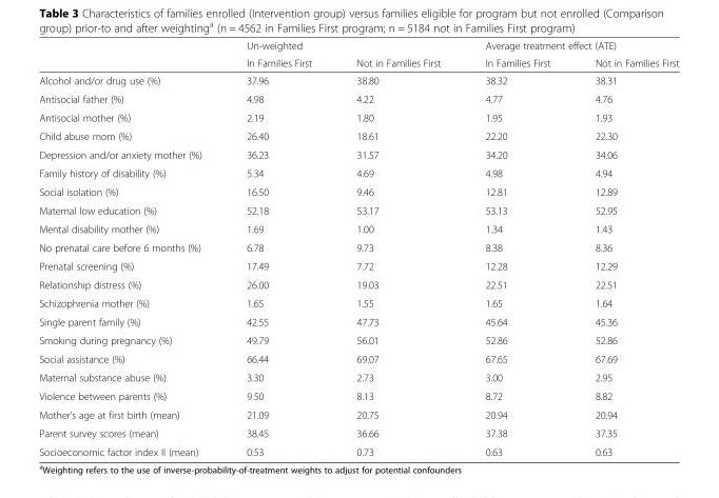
<table><thead><tr><td rowspan="2"></td><td colspan="2">Un-weighted</td><td colspan="2">Average treatment effect (ATE)</td></tr><tr><td>In Families First</td><td>Not in Families First</td><td>In Families First</td><td>Not in Families First</td></tr></thead><tbody><tr><td>Alcohol and/or drug use (%)</td><td>37.96</td><td>38.80</td><td>38.32</td><td>38.31</td></tr><tr><td>Antisocial father (%)</td><td>4.98</td><td>4.22</td><td>4.77</td><td>4.76</td></tr><tr><td>Antisocial mother (%)</td><td>2.19</td><td>1.80</td><td>1.95</td><td>1.93</td></tr><tr><td>Child abuse mom (%)</td><td>26.40</td><td>18.61</td><td>22.20</td><td>22.30</td></tr><tr><td>Depression and/or anxiety mother (%)</td><td>36.23</td><td>31.57</td><td>34.20</td><td>34.06</td></tr><tr><td>Family history of disability (%)</td><td>5.34</td><td>4.69</td><td>4.98</td><td>4.94</td></tr><tr><td>Social isolation (%)</td><td>16.50</td><td>9.46</td><td>12.81</td><td>12.89</td></tr><tr><td>Maternal low education (%)</td><td>52.18</td><td>53.17</td><td>53.13</td><td>52.95</td></tr><tr><td>Mental disability mother (%)</td><td>1.69</td><td>1.00</td><td>1.34</td><td>1.43</td></tr><tr><td>No prenatal care before 6 months (%)</td><td>6.78</td><td>9.73</td><td>8.38</td><td>8.36</td></tr><tr><td>Prenatal screening (%)</td><td>17.49</td><td>7.72</td><td>12.28</td><td>12.29</td></tr><tr><td>Relationship distress (%)</td><td>26.00</td><td>19.03</td><td>22.51</td><td>22.51</td></tr><tr><td>Schizophrenia mother (%)</td><td>1.65</td><td>1.55</td><td>1.65</td><td>1.64</td></tr><tr><td>Single parent family (%)</td><td>42.55</td><td>47.73</td><td>45.64</td><td>45.36</td></tr><tr><td>Smoking during pregnancy (%)</td><td>49.79</td><td>56.01</td><td>52.86</td><td>52.86</td></tr><tr><td>Social assistance (%)</td><td>66.44</td><td>69.07</td><td>67.65</td><td>67.69</td></tr><tr><td>Maternal substance abuse (%)</td><td>3.30</td><td>2.73</td><td>3.00</td><td>2.95</td></tr><tr><td>Violence between parents (%)</td><td>9.50</td><td>8.13</td><td>8.72</td><td>8.82</td></tr><tr><td>Mother’s age at first birth (mean)</td><td>21.09</td><td>20.75</td><td>20.94</td><td>20.94</td></tr><tr><td>Parent survey scores (mean)</td><td>38.45</td><td>36.66</td><td>37.38</td><td>37.35</td></tr><tr><td>Socioeconomic factor index II (mean)</td><td>0.53</td><td>0.73</td><td>0.63</td><td>0.63</td></tr></tbody></table>